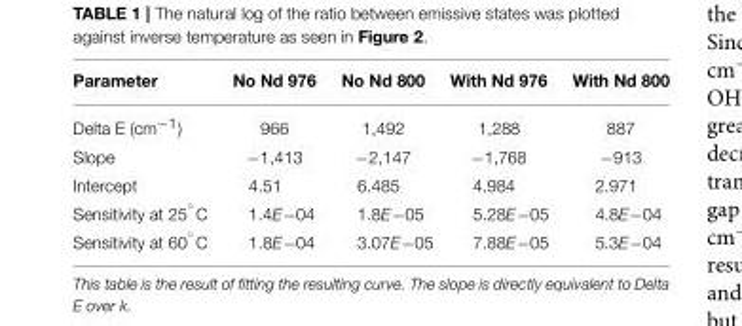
<table><thead><tr><td>Parameter</td><td>No Nd 976</td><td>No Nd 800</td><td>With Nd 976</td><td>With Nd 800</td></tr></thead><tbody><tr><td>Delta E (cm<sup>−1</sup>)</td><td>966</td><td>1,492</td><td>1,288</td><td>887</td></tr><tr><td>Slope</td><td>−1,413</td><td>−2,147</td><td>−1,768</td><td>−913</td></tr><tr><td>Intercept</td><td>4.51</td><td>6.485</td><td>4.984</td><td>2.971</td></tr><tr><td>Sensitivity at 25 ◦C</td><td>1.4E−04</td><td>1.8E−05</td><td>5.28E−05</td><td>4.8E−04</td></tr><tr><td>Sensitivity at 60 ◦C</td><td>1.8E−04</td><td>3.07E−05</td><td>7.88E−05</td><td>5.3E−04</td></tr></tbody></table>